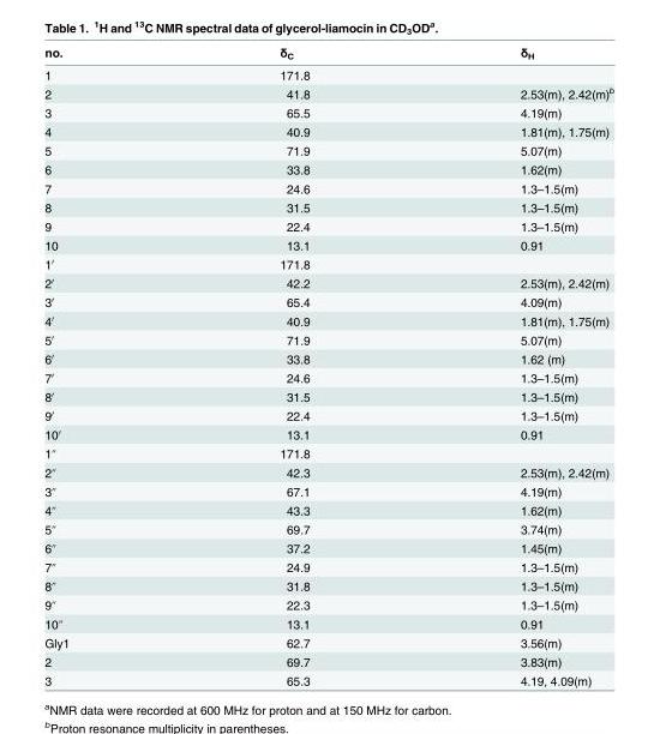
<table><thead><tr><td>no.</td><td>δ<sub>C</sub></td><td>δ<sub>H</sub></td></tr></thead><tbody><tr><td>1</td><td>171.8</td><td></td></tr><tr><td>2</td><td>41.8</td><td>2.53(m), 2.42(m)<sup>b</sup></td></tr><tr><td>3</td><td>65.5</td><td>4.19(m)</td></tr><tr><td>4</td><td>40.9</td><td>1.81(m), 1.75(m)</td></tr><tr><td>5</td><td>71.9</td><td>5.07(m)</td></tr><tr><td>6</td><td>33.8</td><td>1.62(m)</td></tr><tr><td>7</td><td>24.6</td><td>1.3–1.5(m)</td></tr><tr><td>8</td><td>31.5</td><td>1.3–1.5(m)</td></tr><tr><td>9</td><td>22.4</td><td>1.3–1.5(m)</td></tr><tr><td>10</td><td>13.1</td><td>0.91</td></tr><tr><td>1′</td><td>171.8</td><td></td></tr><tr><td>2′</td><td>42.2</td><td>2.53(m), 2.42(m)</td></tr><tr><td>3′</td><td>65.4</td><td>4.09(m)</td></tr><tr><td>4′</td><td>40.9</td><td>1.81(m), 1.75(m)</td></tr><tr><td>5′</td><td>71.9</td><td>5.07(m)</td></tr><tr><td>6′</td><td>33.8</td><td>1.62 (m)</td></tr><tr><td>7′</td><td>24.6</td><td>1.3–1.5(m)</td></tr><tr><td>8′</td><td>31.5</td><td>1.3–1.5(m)</td></tr><tr><td>9′</td><td>22.4</td><td>1.3–1.5(m)</td></tr><tr><td>10′</td><td>13.1</td><td>0.91</td></tr><tr><td>1″</td><td>171.8</td><td></td></tr><tr><td>2″</td><td>42.3</td><td>2.53(m), 2.42(m)</td></tr><tr><td>3″</td><td>67.1</td><td>4.19(m)</td></tr><tr><td>4″</td><td>43.3</td><td>1.62(m)</td></tr><tr><td>5″</td><td>69.7</td><td>3.74(m)</td></tr><tr><td>6″</td><td>37.2</td><td>1.45(m)</td></tr><tr><td>7″</td><td>24.9</td><td>1.3–1.5(m)</td></tr><tr><td>8″</td><td>31.8</td><td>1.3–1.5(m)</td></tr><tr><td>9″</td><td>22.3</td><td>1.3–1.5(m)</td></tr><tr><td>10″</td><td>13.1</td><td>0.91</td></tr><tr><td>Gly1</td><td>62.7</td><td>3.56(m)</td></tr><tr><td>2</td><td>69.7</td><td>3.83(m)</td></tr><tr><td>3</td><td>65.3</td><td>4.19, 4.09(m)</td></tr></tbody></table>